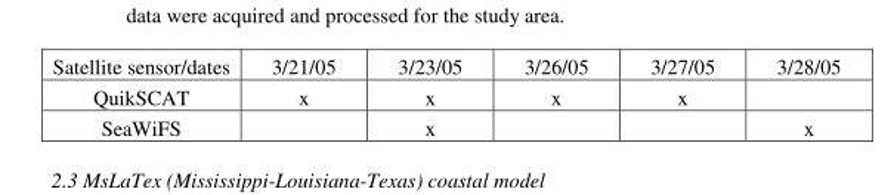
<table><thead><tr><td>Satellite sensor/dates</td><td>3/21/05</td><td>3/23/05</td><td>3/26/05</td><td>3/27/05</td><td>3/28/05</td></tr></thead><tbody><tr><td>QuikSCAT</td><td>x</td><td>x</td><td>x</td><td>x</td><td></td></tr><tr><td>SeaWiFS</td><td></td><td>x</td><td></td><td></td><td>x</td></tr></tbody></table>